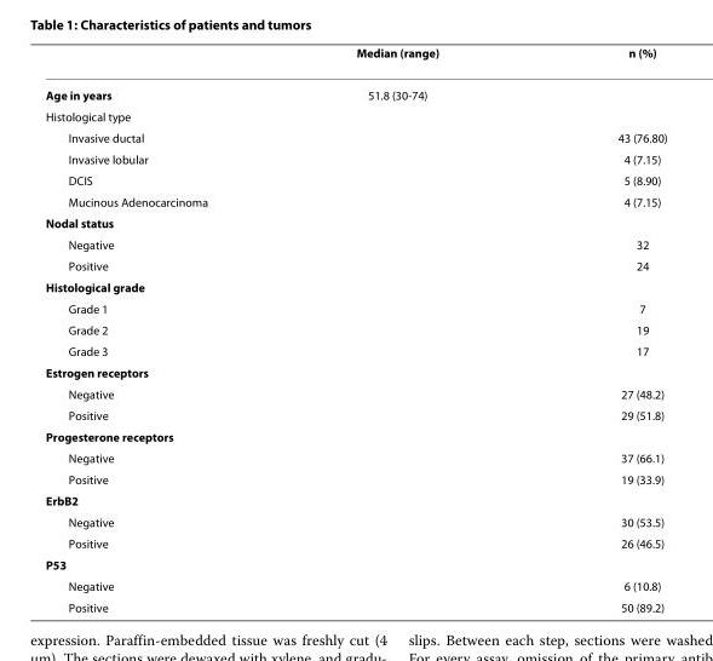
<table><thead><tr><td></td><td>Median (range)</td><td>n (%)</td></tr></thead><tbody><tr><td>Age in years</td><td>51.8 (30-74)</td><td></td></tr><tr><td colspan="3">Histological type</td></tr><tr><td>Invasive ductal</td><td></td><td>43 (76.80)</td></tr><tr><td>Invasive lobular</td><td></td><td>4 (7.15)</td></tr><tr><td>DCIS</td><td></td><td>5 (8.90)</td></tr><tr><td>Mucinous Adenocarcinoma</td><td></td><td>4 (7.15)</td></tr><tr><td colspan="3">Nodal status</td></tr><tr><td>Negative</td><td></td><td>32</td></tr><tr><td>Positive</td><td></td><td>24</td></tr><tr><td colspan="3">Histological grade</td></tr><tr><td>Grade 1</td><td></td><td>7</td></tr><tr><td>Grade 2</td><td></td><td>19</td></tr><tr><td>Grade 3</td><td></td><td>17</td></tr><tr><td colspan="3">Estrogen receptors</td></tr><tr><td>Negative</td><td></td><td>27 (48.2)</td></tr><tr><td>Positive</td><td></td><td>29 (51.8)</td></tr><tr><td colspan="3">Progesterone receptors</td></tr><tr><td>Negative</td><td></td><td>37 (66.1)</td></tr><tr><td>Positive</td><td></td><td>19 (33.9)</td></tr><tr><td colspan="3">ErbB2</td></tr><tr><td>Negative</td><td></td><td>30 (53.5)</td></tr><tr><td>Positive</td><td></td><td>26 (46.5)</td></tr><tr><td colspan="3">P53</td></tr><tr><td>Negative</td><td></td><td>6 (10.8)</td></tr><tr><td>Positive</td><td></td><td>50 (89.2)</td></tr></tbody></table>